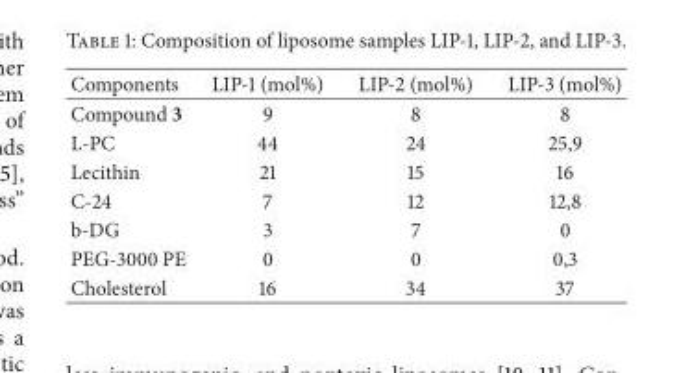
<table><thead><tr><td>Components</td><td>LIP-1 (mol%)</td><td>LIP-2 (mol%)</td><td>LIP-3 (mol%)</td></tr></thead><tbody><tr><td>Compound 3</td><td>9</td><td>8</td><td>8</td></tr><tr><td>L-PC</td><td>44</td><td>24</td><td>25,9</td></tr><tr><td>Lecithin</td><td>21</td><td>15</td><td>16</td></tr><tr><td>C-24</td><td>7</td><td>12</td><td>12,8</td></tr><tr><td>b-DG</td><td>3</td><td>7</td><td>0</td></tr><tr><td>PEG-3000 PE</td><td>0</td><td>0</td><td>0,3</td></tr><tr><td>Cholesterol</td><td>16</td><td>34</td><td>37</td></tr></tbody></table>